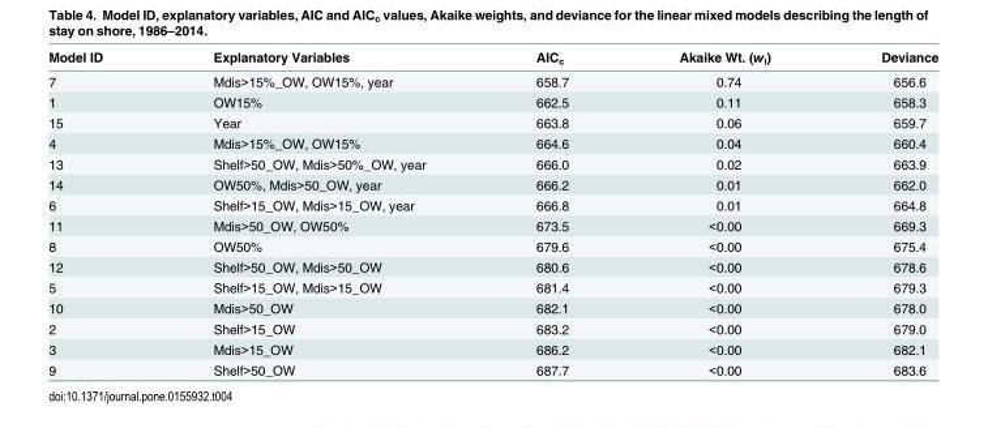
<table><thead><tr><td>Model ID</td><td>Explanatory Variables</td><td>AIC<sub>c</sub></td><td>Akaike Wt. (w<sub>i</sub>)</td><td>Deviance</td></tr></thead><tbody><tr><td>7</td><td>Mdis&gt;15%_OW, OW15%, year</td><td>658.7</td><td>0.74</td><td>656.6</td></tr><tr><td>1</td><td>OW15%</td><td>662.5</td><td>0.11</td><td>658.3</td></tr><tr><td>15</td><td>Year</td><td>663.8</td><td>0.06</td><td>659.7</td></tr><tr><td>4</td><td>Mdis&gt;15%_OW, OW15%</td><td>664.6</td><td>0.04</td><td>660.4</td></tr><tr><td>13</td><td>Shelf&gt;50_OW, Mdis&gt;50%_OW, year</td><td>666.0</td><td>0.02</td><td>663.9</td></tr><tr><td>14</td><td>OW50%, Mdis&gt;50_OW, year</td><td>666.2</td><td>0.01</td><td>662.0</td></tr><tr><td>6</td><td>Shelf&gt;15_OW, Mdis&gt;15_OW, year</td><td>666.8</td><td>0.01</td><td>664.8</td></tr><tr><td>11</td><td>Mdis&gt;50_OW, OW50%</td><td>673.5</td><td>&lt;0.00</td><td>669.3</td></tr><tr><td>8</td><td>OW50%</td><td>679.6</td><td>&lt;0.00</td><td>675.4</td></tr><tr><td>12</td><td>Shelf&gt;50_OW, Mdis&gt;50_OW</td><td>680.6</td><td>&lt;0.00</td><td>678.6</td></tr><tr><td>5</td><td>Shelf&gt;15_OW, Mdis&gt;15_OW</td><td>681.4</td><td>&lt;0.00</td><td>679.3</td></tr><tr><td>10</td><td>Mdis&gt;50_OW</td><td>682.1</td><td>&lt;0.00</td><td>678.0</td></tr><tr><td>2</td><td>Shelf&gt;15_OW</td><td>683.2</td><td>&lt;0.00</td><td>679.0</td></tr><tr><td>3</td><td>Mdis&gt;15_OW</td><td>686.2</td><td>&lt;0.00</td><td>682.1</td></tr><tr><td>9</td><td>Shelf&gt;50_OW</td><td>687.7</td><td>&lt;0.00</td><td>683.6</td></tr></tbody></table>